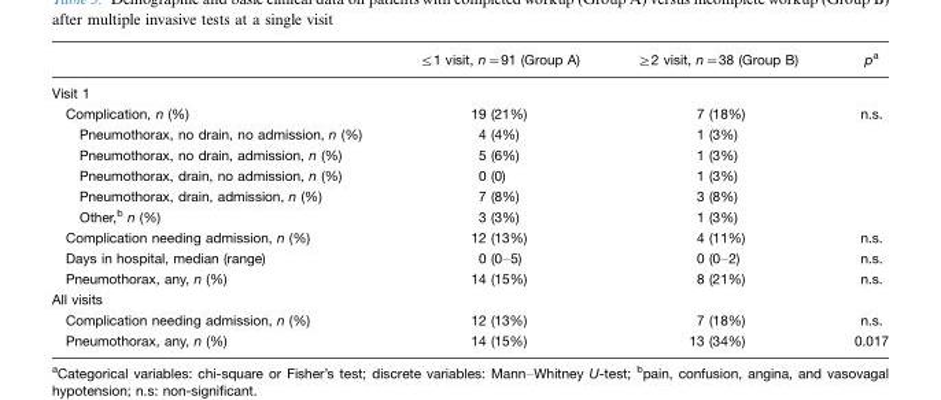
<table><thead><tr><td></td><td>≤1 visit, n=91 (Group A)</td><td>≥2 visit, n=38 (Group B)</td><td>p<sup>a</sup></td></tr></thead><tbody><tr><td colspan="4">Visit 1</td></tr><tr><td>Complication, n (%)</td><td>19 (21%)</td><td>7 (18%)</td><td>n.s.</td></tr><tr><td>Pneumothorax, no drain, no admission, n (%)</td><td>4 (4%)</td><td>1 (3%)</td><td></td></tr><tr><td>Pneumothorax, no drain, admission, n (%)</td><td>5 (6%)</td><td>1 (3%)</td><td></td></tr><tr><td>Pneumothorax, drain, no admission, n (%)</td><td>0 (0)</td><td>1 (3%)</td><td></td></tr><tr><td>Pneumothorax, drain, admission, n (%)</td><td>7 (8%)</td><td>3 (8%)</td><td></td></tr><tr><td>Other,<sup>b</sup> n (%)</td><td>3 (3%)</td><td>1 (3%)</td><td></td></tr><tr><td>Complication needing admission, n (%)</td><td>12 (13%)</td><td>4 (11%)</td><td>n.s.</td></tr><tr><td>Days in hospital, median (range)</td><td>0 (0–5)</td><td>0 (0–2)</td><td>n.s.</td></tr><tr><td>Pneumothorax, any, n (%)</td><td>14 (15%)</td><td>8 (21%)</td><td>n.s.</td></tr><tr><td colspan="4">All visits</td></tr><tr><td>Complication needing admission, n (%)</td><td>12 (13%)</td><td>7 (18%)</td><td>n.s.</td></tr><tr><td>Pneumothorax, any, n (%)</td><td>14 (15%)</td><td>13 (34%)</td><td>0.017</td></tr></tbody></table>